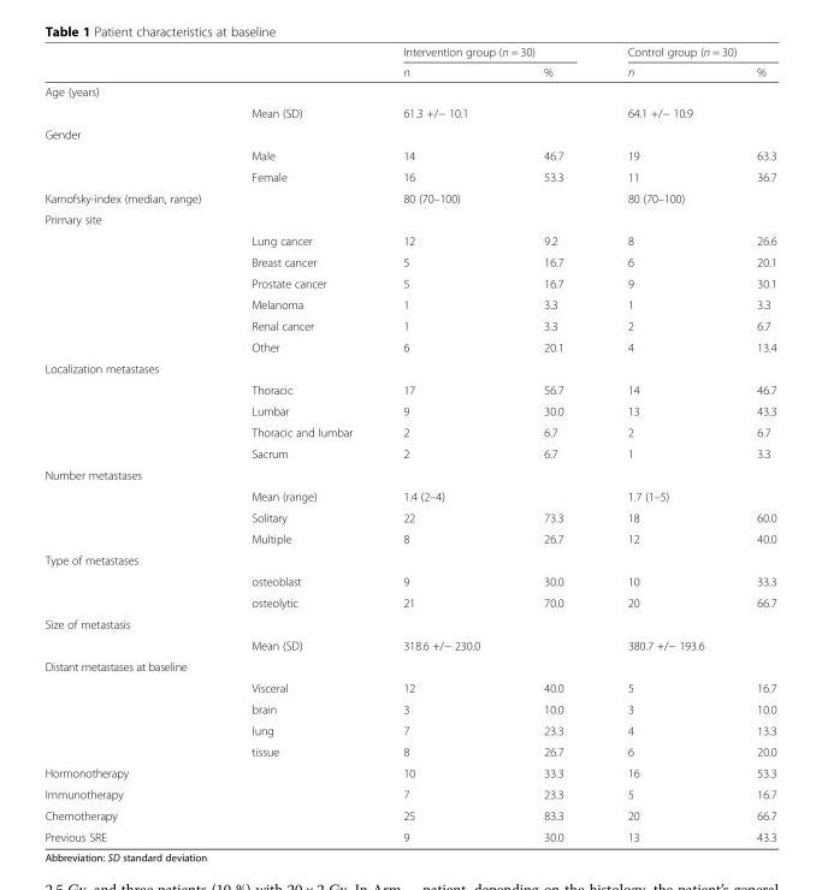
<table><thead><tr><td rowspan="2"></td><td rowspan="2"></td><td colspan="2">Intervention group (n = 30)</td><td colspan="2">Control group (n = 30)</td></tr><tr><td>n</td><td>%</td><td>n</td><td>%</td></tr></thead><tbody><tr><td colspan="6">Age (years)</td></tr><tr><td></td><td>Mean (SD)</td><td>61.3 +/− 10.1</td><td></td><td>64.1 +/− 10.9</td><td></td></tr><tr><td colspan="6">Gender</td></tr><tr><td></td><td>Male</td><td>14</td><td>46.7</td><td>19</td><td>63.3</td></tr><tr><td></td><td>Female</td><td>16</td><td>53.3</td><td>11</td><td>36.7</td></tr><tr><td>Karnofsky-index (median, range)</td><td></td><td>80 (70–100)</td><td></td><td>80 (70–100)</td><td></td></tr><tr><td colspan="6">Primary site</td></tr><tr><td></td><td>Lung cancer</td><td>12</td><td>9.2</td><td>8</td><td>26.6</td></tr><tr><td></td><td>Breast cancer</td><td>5</td><td>16.7</td><td>6</td><td>20.1</td></tr><tr><td></td><td>Prostate cancer</td><td>5</td><td>16.7</td><td>9</td><td>30.1</td></tr><tr><td></td><td>Melanoma</td><td>1</td><td>3.3</td><td>1</td><td>3.3</td></tr><tr><td></td><td>Renal cancer</td><td>1</td><td>3.3</td><td>2</td><td>6.7</td></tr><tr><td></td><td>Other</td><td>6</td><td>20.1</td><td>4</td><td>13.4</td></tr><tr><td colspan="6">Localization metastases</td></tr><tr><td></td><td>Thoracic</td><td>17</td><td>56.7</td><td>14</td><td>46.7</td></tr><tr><td></td><td>Lumbar</td><td>9</td><td>30.0</td><td>13</td><td>43.3</td></tr><tr><td></td><td>Thoracic and lumbar</td><td>2</td><td>6.7</td><td>2</td><td>6.7</td></tr><tr><td></td><td>Sacrum</td><td>2</td><td>6.7</td><td>1</td><td>3.3</td></tr><tr><td colspan="6">Number metastases</td></tr><tr><td></td><td>Mean (range)</td><td>1.4 (2–4)</td><td></td><td>1.7 (1–5)</td><td></td></tr><tr><td></td><td>Solitary</td><td>22</td><td>73.3</td><td>18</td><td>60.0</td></tr><tr><td></td><td>Multiple</td><td>8</td><td>26.7</td><td>12</td><td>40.0</td></tr><tr><td colspan="6">Type of metastases</td></tr><tr><td></td><td>osteoblast</td><td>9</td><td>30.0</td><td>10</td><td>33.3</td></tr><tr><td></td><td>osteolytic</td><td>21</td><td>70.0</td><td>20</td><td>66.7</td></tr><tr><td colspan="6">Size of metastasis</td></tr><tr><td></td><td>Mean (SD)</td><td>318.6 +/− 230.0</td><td></td><td>380.7 +/− 193.6</td><td></td></tr><tr><td colspan="6">Distant metastases at baseline</td></tr><tr><td></td><td>Visceral</td><td>12</td><td>40.0</td><td>5</td><td>16.7</td></tr><tr><td></td><td>brain</td><td>3</td><td>10.0</td><td>3</td><td>10.0</td></tr><tr><td></td><td>lung</td><td>7</td><td>23.3</td><td>4</td><td>13.3</td></tr><tr><td></td><td>tissue</td><td>8</td><td>26.7</td><td>6</td><td>20.0</td></tr><tr><td>Hormonotherapy</td><td></td><td>10</td><td>33.3</td><td>16</td><td>53.3</td></tr><tr><td>Immunotherapy</td><td></td><td>7</td><td>23.3</td><td>5</td><td>16.7</td></tr><tr><td>Chemotherapy</td><td></td><td>25</td><td>83.3</td><td>20</td><td>66.7</td></tr><tr><td>Previous SRE</td><td></td><td>9</td><td>30.0</td><td>13</td><td>43.3</td></tr></tbody></table>